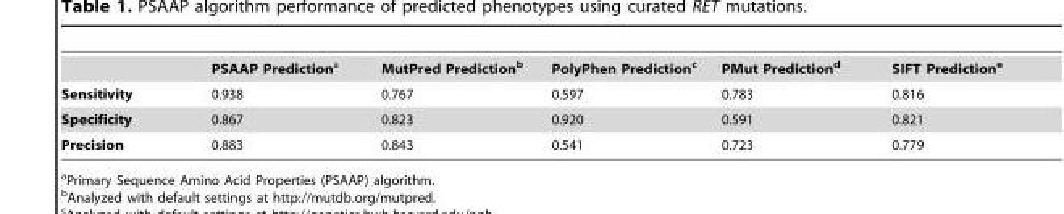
<table><thead><tr><td></td><td>PSAAP Predictiona</td><td>MutPred Prediction<sup>b</sup></td><td>PolyPhen Prediction<sup>c</sup></td><td>PMut Prediction<sup>d</sup></td><td>SIFT Prediction<sup>e</sup></td></tr></thead><tbody><tr><td>Sensitivity</td><td>0.938</td><td>0.767</td><td>0.597</td><td>0.783</td><td>0.816</td></tr><tr><td>Specificity</td><td>0.867</td><td>0.823</td><td>0.920</td><td>0.591</td><td>0.821</td></tr><tr><td>Precision</td><td>0.883</td><td>0.843</td><td>0.541</td><td>0.723</td><td>0.779</td></tr></tbody></table>